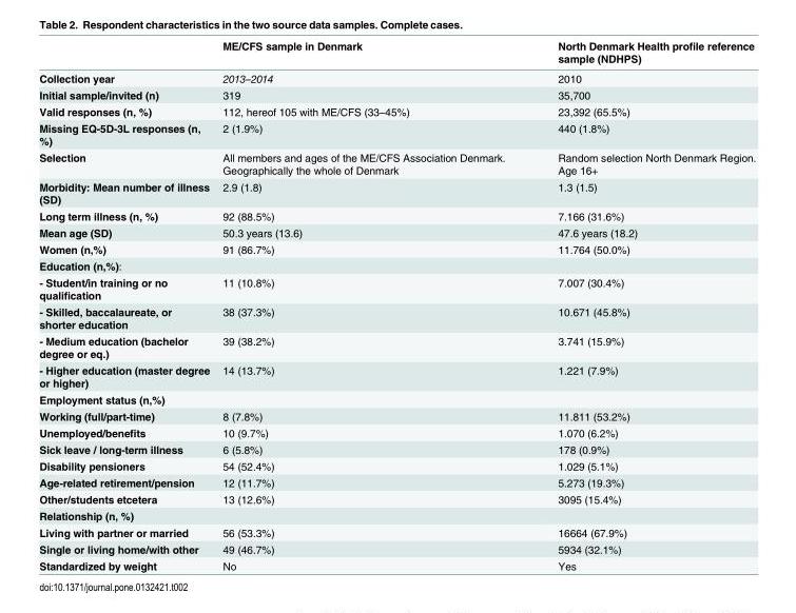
<table><thead><tr><td></td><td>ME/CFS sample in Denmark</td><td>North Denmark Health profile reference sample (NDHPS)</td></tr></thead><tbody><tr><td>Collection year</td><td>2013–2014</td><td>2010</td></tr><tr><td>Initial sample/invited (n)</td><td>319</td><td>35,700</td></tr><tr><td>Valid responses (n, %)</td><td>112, hereof 105 with ME/CFS (33–45%)</td><td>23,392 (65.5%)</td></tr><tr><td>Missing EQ-5D-3L responses (n, %)</td><td>2 (1.9%)</td><td>440 (1.8%)</td></tr><tr><td>Selection</td><td>All members and ages of the ME/CFS Association Denmark. Geographically the whole of Denmark</td><td>Random selection North Denmark Region. Age 16+</td></tr><tr><td>Morbidity: Mean number of illness (SD)</td><td>2.9 (1.8)</td><td>1.3 (1.5)</td></tr><tr><td>Long term illness (n, %)</td><td>92 (88.5%)</td><td>7.166 (31.6%)</td></tr><tr><td>Mean age (SD)</td><td>50.3 years (13.6)</td><td>47.6 years (18.2)</td></tr><tr><td>Women (n,%)</td><td>91 (86.7%)</td><td>11.764 (50.0%)</td></tr><tr><td colspan="3">Education (n,%):</td></tr><tr><td>- Student/in training or no qualification</td><td>11 (10.8%)</td><td>7.007 (30.4%)</td></tr><tr><td>- Skilled, baccalaureate, or shorter education</td><td>38 (37.3%)</td><td>10.671 (45.8%)</td></tr><tr><td>- Medium education (bachelor degree or eq.)</td><td>39 (38.2%)</td><td>3.741 (15.9%)</td></tr><tr><td>- Higher education (master degree or higher)</td><td>14 (13.7%)</td><td>1.221 (7.9%)</td></tr><tr><td colspan="3">Employment status (n,%)</td></tr><tr><td>Working (full/part-time)</td><td>8 (7.8%)</td><td>11.811 (53.2%)</td></tr><tr><td>Unemployed/benefits</td><td>10 (9.7%)</td><td>1.070 (6.2%)</td></tr><tr><td>Sick leave / long-term illness</td><td>6 (5.8%)</td><td>178 (0.9%)</td></tr><tr><td>Disability pensioners</td><td>54 (52.4%)</td><td>1.029 (5.1%)</td></tr><tr><td>Age-related retirement/pension</td><td>12 (11.7%)</td><td>5.273 (19.3%)</td></tr><tr><td>Other/students etcetera</td><td>13 (12.6%)</td><td>3095 (15.4%)</td></tr><tr><td colspan="3">Relationship (n, %)</td></tr><tr><td>Living with partner or married</td><td>56 (53.3%)</td><td>16664 (67.9%)</td></tr><tr><td>Single or living home/with other</td><td>49 (46.7%)</td><td>5934 (32.1%)</td></tr><tr><td>Standardized by weight</td><td>No</td><td>Yes</td></tr></tbody></table>